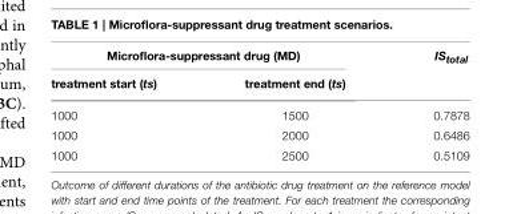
<table><thead><tr><td colspan="2">Microflora-suppressant drug (MD)</td><td rowspan="2">IStotal</td></tr><tr><td>treatment start (ts)</td><td>treatment end (ts)</td></tr></thead><tbody><tr><td>1000</td><td>1500</td><td>0.7878</td></tr><tr><td>1000</td><td>2000</td><td>0.6486</td></tr><tr><td>1000</td><td>2500</td><td>0.5109</td></tr></tbody></table>